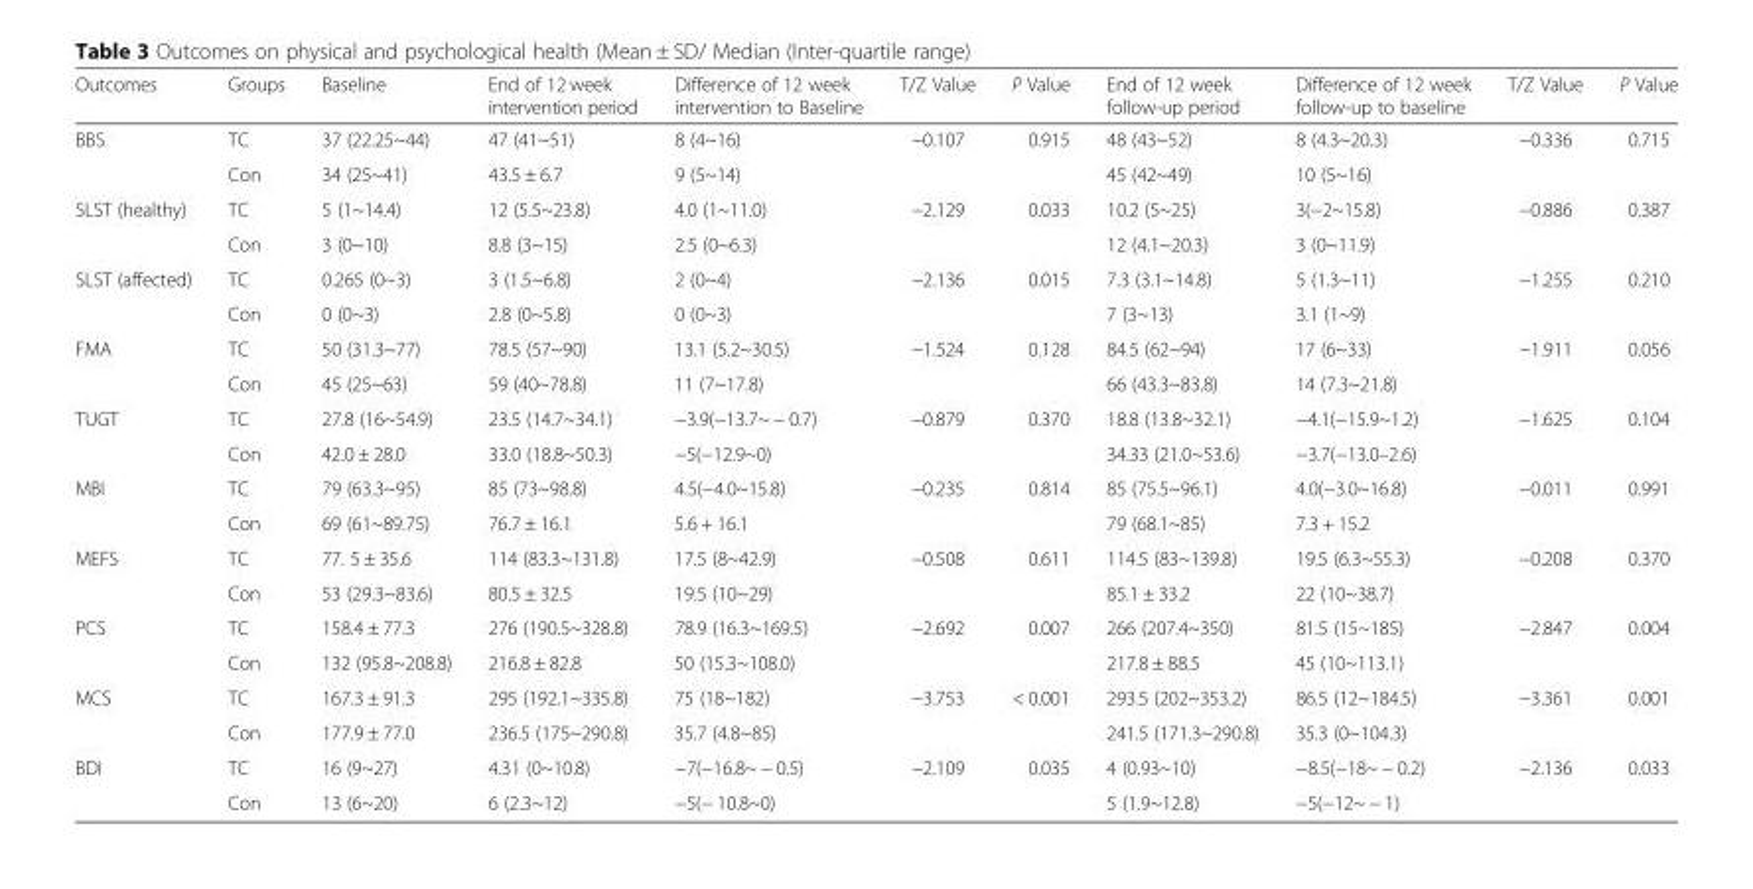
<table><thead><tr><td>Outcomes</td><td>Groups</td><td>Baseline</td><td>End of 12 week intervention period</td><td>Difference of 12 week intervention to Baseline</td><td>T/Z Value</td><td>P Value</td><td>End of 12 week follow-up period</td><td>Difference of 12 week follow-up to baseline</td><td>T/Z Value</td><td>P Value</td></tr></thead><tbody><tr><td rowspan="2">BBS</td><td>TC</td><td>37 (22.25~44)</td><td>47 (41~51)</td><td>8 (4~16)</td><td rowspan="2">−0.107</td><td rowspan="2">0.915</td><td>48 (43~52)</td><td>8 (4.3~20.3)</td><td rowspan="2">−0.336</td><td rowspan="2">0.715</td></tr><tr><td>Con</td><td>34 (25~41)</td><td>43.5 ± 6.7</td><td>9 (5~14)</td><td>45 (42~49)</td><td>10 (5~16)</td></tr><tr><td rowspan="2">SLST (healthy)</td><td>TC</td><td>5 (1~14.4)</td><td>12 (5.5~23.8)</td><td>4.0 (1~11.0)</td><td rowspan="2">−2.129</td><td rowspan="2">0.033</td><td>10.2 (5~25)</td><td>3(−2~15.8)</td><td rowspan="2">−0.886</td><td rowspan="2">0.387</td></tr><tr><td>Con</td><td>3 (0~10)</td><td>8.8 (3~15)</td><td>2.5 (0~6.3)</td><td>12 (4.1~20.3)</td><td>3 (0~11.9)</td></tr><tr><td rowspan="2">SLST (affected)</td><td>TC</td><td>0.265 (0~3)</td><td>3 (1.5~6.8)</td><td>2 (0~4)</td><td rowspan="2">−2.136</td><td rowspan="2">0.015</td><td>7.3 (3.1~14.8)</td><td>5 (1.3~11)</td><td rowspan="2">−1.255</td><td rowspan="2">0.210</td></tr><tr><td>Con</td><td>0 (0~3)</td><td>2.8 (0~5.8)</td><td>0 (0~3)</td><td>7 (3~13)</td><td>3.1 (1~9)</td></tr><tr><td rowspan="2">FMA</td><td>TC</td><td>50 (31.3~77)</td><td>78.5 (57~90)</td><td>13.1 (5.2~30.5)</td><td rowspan="2">−1.524</td><td rowspan="2">0.128</td><td>84.5 (62~94)</td><td>17 (6~33)</td><td rowspan="2">−1.911</td><td rowspan="2">0.056</td></tr><tr><td>Con</td><td>45 (25~63)</td><td>59 (40~78.8)</td><td>11 (7~17.8)</td><td>66 (43.3~83.8)</td><td>14 (7.3~21.8)</td></tr><tr><td rowspan="2">TUGT</td><td>TC</td><td>27.8 (16~54.9)</td><td>23.5 (14.7~34.1)</td><td>−3.9(−13.7~ − 0.7)</td><td rowspan="2">−0.879</td><td rowspan="2">0.370</td><td>18.8 (13.8~32.1)</td><td>−4.1(−15.9~1.2)</td><td rowspan="2">−1.625</td><td rowspan="2">0.104</td></tr><tr><td>Con</td><td>42.0 ± 28.0</td><td>33.0 (18.8~50.3)</td><td>−5(−12.9~0)</td><td>34.33 (21.0~53.6)</td><td>−3.7(−13.0–2.6)</td></tr><tr><td rowspan="2">MBI</td><td>TC</td><td>79 (63.3~95)</td><td>85 (73~98.8)</td><td>4.5(−4.0~15.8)</td><td rowspan="2">−0.235</td><td rowspan="2">0.814</td><td>85 (75.5~96.1)</td><td>4.0(−3.0~16.8)</td><td rowspan="2">−0.011</td><td rowspan="2">0.991</td></tr><tr><td>Con</td><td>69 (61~89.75)</td><td>76.7 ± 16.1</td><td>5.6 + 16.1</td><td>79 (68.1~85)</td><td>7.3 + 15.2</td></tr><tr><td rowspan="2">MEFS</td><td>TC</td><td>77. 5 ± 35.6</td><td>114 (83.3~131.8)</td><td>17.5 (8~42.9)</td><td rowspan="2">−0.508</td><td rowspan="2">0.611</td><td>114.5 (83~139.8)</td><td>19.5 (6.3~55.3)</td><td rowspan="2">−0.208</td><td rowspan="2">0.370</td></tr><tr><td>Con</td><td>53 (29.3~83.6)</td><td>80.5 ± 32.5</td><td>19.5 (10~29)</td><td>85.1 ± 33.2</td><td>22 (10~38.7)</td></tr><tr><td rowspan="2">PCS</td><td>TC</td><td>158.4 ± 77.3</td><td>276 (190.5~328.8)</td><td>78.9 (16.3~169.5)</td><td rowspan="2">−2.692</td><td rowspan="2">0.007</td><td>266 (207.4~350)</td><td>81.5 (15~185)</td><td rowspan="2">−2.847</td><td rowspan="2">0.004</td></tr><tr><td>Con</td><td>132 (95.8~208.8)</td><td>216.8 ± 82.8</td><td>50 (15.3~108.0)</td><td>217.8 ± 88.5</td><td>45 (10~113.1)</td></tr><tr><td rowspan="2">MCS</td><td>TC</td><td>167.3 ± 91.3</td><td>295 (192.1~335.8)</td><td>75 (18~182)</td><td rowspan="2">−3.753</td><td rowspan="2">&lt; 0.001</td><td>293.5 (202~353.2)</td><td>86.5 (12~184.5)</td><td rowspan="2">−3.361</td><td rowspan="2">0.001</td></tr><tr><td>Con</td><td>177.9 ± 77.0</td><td>236.5 (175~290.8)</td><td>35.7 (4.8~85)</td><td>241.5 (171.3~290.8)</td><td>35.3 (0~104.3)</td></tr><tr><td rowspan="2">BDI</td><td>TC</td><td>16 (9~27)</td><td>4.31 (0~10.8)</td><td>−7(−16.8~ − 0.5)</td><td rowspan="2">−2.109</td><td rowspan="2">0.035</td><td>4 (0.93~10)</td><td>−8.5(−18~ − 0.2)</td><td rowspan="2">−2.136</td><td rowspan="2">0.033</td></tr><tr><td>Con</td><td>13 (6~20)</td><td>6 (2.3~12)</td><td>−5(− 10.8~0)</td><td>5 (1.9~12.8)</td><td>−5(−12~ − 1)</td></tr></tbody></table>